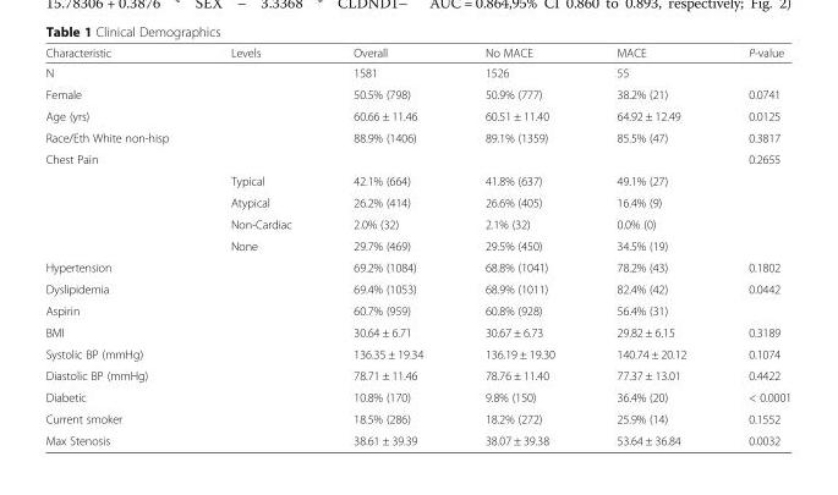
<table><thead><tr><td>Characteristic</td><td>Levels</td><td>Overall</td><td>No MACE</td><td>MACE</td><td>P-value</td></tr></thead><tbody><tr><td>N</td><td></td><td>1581</td><td>1526</td><td>55</td><td></td></tr><tr><td>Female</td><td></td><td>50.5% (798)</td><td>50.9% (777)</td><td>38.2% (21)</td><td>0.0741</td></tr><tr><td>Age (yrs)</td><td></td><td>60.66 ± 11.46</td><td>60.51 ± 11.40</td><td>64.92 ± 12.49</td><td>0.0125</td></tr><tr><td>Race/Eth White non-hisp</td><td></td><td>88.9% (1406)</td><td>89.1% (1359)</td><td>85.5% (47)</td><td>0.3817</td></tr><tr><td rowspan="5">Chest Pain</td><td></td><td></td><td></td><td></td><td>0.2655</td></tr><tr><td>Typical</td><td>42.1% (664)</td><td>41.8% (637)</td><td>49.1% (27)</td><td></td></tr><tr><td>Atypical</td><td>26.2% (414)</td><td>26.6% (405)</td><td>16.4% (9)</td><td></td></tr><tr><td>Non-Cardiac</td><td>2.0% (32)</td><td>2.1% (32)</td><td>0.0% (0)</td><td></td></tr><tr><td>None</td><td>29.7% (469)</td><td>29.5% (450)</td><td>34.5% (19)</td><td></td></tr><tr><td>Hypertension</td><td></td><td>69.2% (1084)</td><td>68.8% (1041)</td><td>78.2% (43)</td><td>0.1802</td></tr><tr><td>Dyslipidemia</td><td></td><td>69.4% (1053)</td><td>68.9% (1011)</td><td>82.4% (42)</td><td>0.0442</td></tr><tr><td>Aspirin</td><td></td><td>60.7% (959)</td><td>60.8% (928)</td><td>56.4% (31)</td><td></td></tr><tr><td>BMI</td><td></td><td>30.64 ± 6.71</td><td>30.67 ± 6.73</td><td>29.82 ± 6.15</td><td>0.3189</td></tr><tr><td>Systolic BP (mmHg)</td><td></td><td>136.35 ± 19.34</td><td>136.19 ± 19.30</td><td>140.74 ± 20.12</td><td>0.1074</td></tr><tr><td>Diastolic BP (mmHg)</td><td></td><td>78.71 ± 11.46</td><td>78.76 ± 11.40</td><td>77.37 ± 13.01</td><td>0.4422</td></tr><tr><td>Diabetic</td><td></td><td>10.8% (170)</td><td>9.8% (150)</td><td>36.4% (20)</td><td>&lt; 0.0001</td></tr><tr><td>Current smoker</td><td></td><td>18.5% (286)</td><td>18.2% (272)</td><td>25.9% (14)</td><td>0.1552</td></tr><tr><td>Max Stenosis</td><td></td><td>38.61 ± 39.39</td><td>38.07 ± 39.38</td><td>53.64 ± 36.84</td><td>0.0032</td></tr></tbody></table>